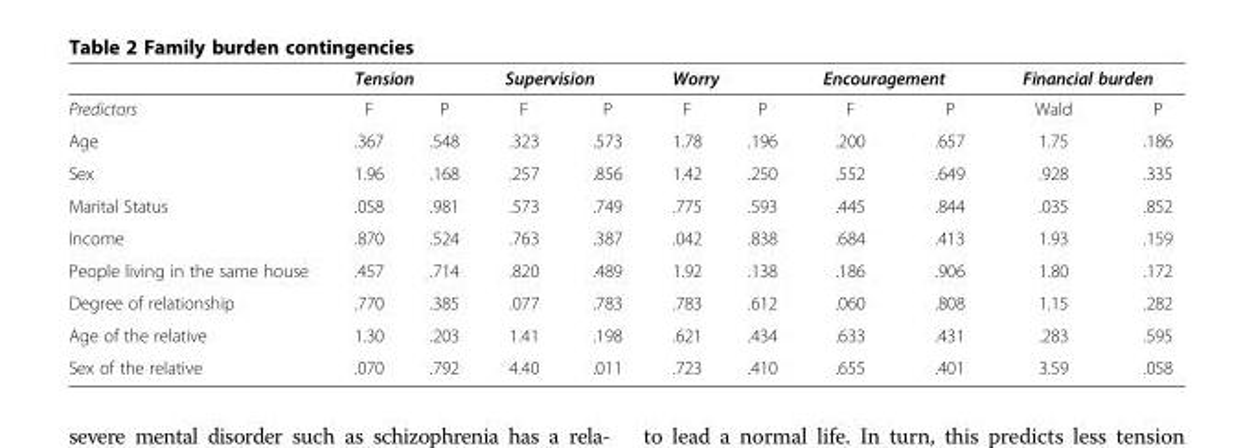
<table><thead><tr><td rowspan="2">Predictors</td><td colspan="2">Tension</td><td colspan="2">Supervision</td><td colspan="2">Worry</td><td colspan="2">Encouragement</td><td colspan="2">Financial burden</td></tr><tr><td>F</td><td>P</td><td>F</td><td>P</td><td>F</td><td>P</td><td>F</td><td>P</td><td>Wald</td><td>P</td></tr></thead><tbody><tr><td>Age</td><td>.367</td><td>.548</td><td>.323</td><td>.573</td><td>1.78</td><td>.196</td><td>.200</td><td>.657</td><td>1.75</td><td>.186</td></tr><tr><td>Sex</td><td>1.96</td><td>.168</td><td>.257</td><td>.856</td><td>1.42</td><td>.250</td><td>.552</td><td>.649</td><td>.928</td><td>.335</td></tr><tr><td>Marital Status</td><td>.058</td><td>.981</td><td>.573</td><td>.749</td><td>.775</td><td>.593</td><td>.445</td><td>.844</td><td>.035</td><td>.852</td></tr><tr><td>Income</td><td>.870</td><td>.524</td><td>.763</td><td>.387</td><td>.042</td><td>.838</td><td>.684</td><td>.413</td><td>1.93</td><td>.159</td></tr><tr><td>People living in the same house</td><td>.457</td><td>.714</td><td>.820</td><td>.489</td><td>1.92</td><td>.138</td><td>.186</td><td>.906</td><td>1.80</td><td>.172</td></tr><tr><td>Degree of relationship</td><td>.770</td><td>.385</td><td>.077</td><td>.783</td><td>.783</td><td>.612</td><td>.060</td><td>.808</td><td>1.15</td><td>.282</td></tr><tr><td>Age of the relative</td><td>1.30</td><td>.203</td><td>1.41</td><td>.198</td><td>.621</td><td>.434</td><td>.633</td><td>.431</td><td>.283</td><td>.595</td></tr><tr><td>Sex of the relative</td><td>.070</td><td>.792</td><td>4.40</td><td>.011</td><td>.723</td><td>.410</td><td>.655</td><td>.401</td><td>3.59</td><td>.058</td></tr></tbody></table>